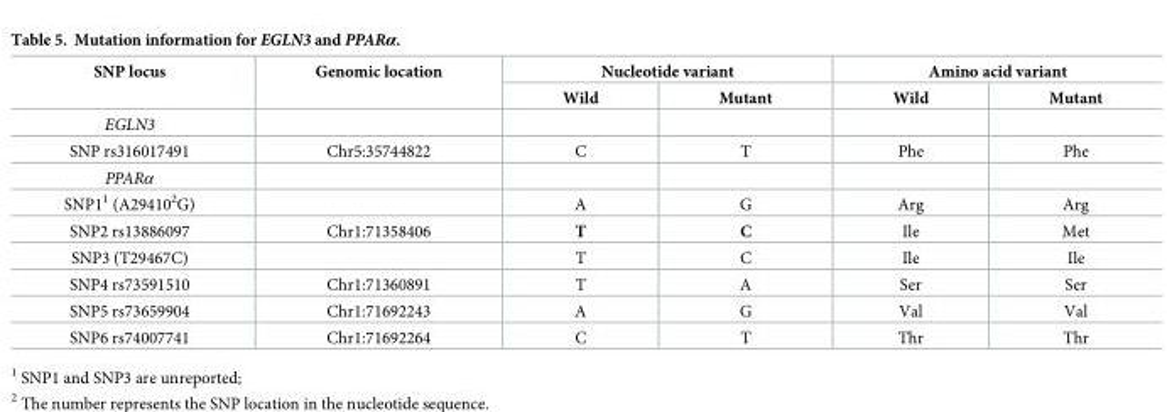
<table><thead><tr><td rowspan="2">SNP locus</td><td rowspan="2">Genomic location</td><td colspan="2">Nucleotide variant</td><td colspan="2">Amino acid variant</td></tr><tr><td>Wild</td><td>Mutant</td><td>Wild</td><td>Mutant</td></tr></thead><tbody><tr><td colspan="6">EGLN3</td></tr><tr><td>SNP rs316017491</td><td>Chr5:35744822</td><td>C</td><td>T</td><td>Phe</td><td>Phe</td></tr><tr><td colspan="6">PPARα</td></tr><tr><td>SNP1<sup>1</sup> (A29410<sup>2</sup>G)</td><td></td><td>A</td><td>G</td><td>Arg</td><td>Arg</td></tr><tr><td>SNP2 rs13886097</td><td>Chr1:71358406</td><td>T</td><td>C</td><td>Ile</td><td>Met</td></tr><tr><td>SNP3 (T29467C)</td><td></td><td>T</td><td>C</td><td>Ile</td><td>Ile</td></tr><tr><td>SNP4 rs73591510</td><td>Chr1:71360891</td><td>T</td><td>A</td><td>Ser</td><td>Ser</td></tr><tr><td>SNP5 rs73659904</td><td>Chr1:71692243</td><td>A</td><td>G</td><td>Val</td><td>Val</td></tr><tr><td>SNP6 rs74007741</td><td>Chr1:71692264</td><td>C</td><td>T</td><td>Thr</td><td>Thr</td></tr></tbody></table>